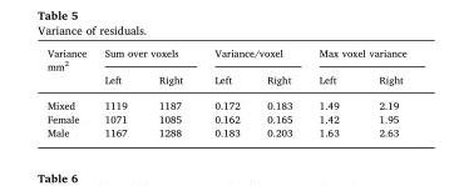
<table><thead><tr><td rowspan="2">Variance mm<sup>2</sup></td><td colspan="2">Sum over voxels</td><td colspan="2">Variance/voxel</td><td colspan="2">Max voxel variance</td></tr><tr><td>Left</td><td>Right</td><td>Left</td><td>Right</td><td>Left</td><td>Right</td></tr></thead><tbody><tr><td>Mixed</td><td>1119</td><td>1187</td><td>0.172</td><td>0.183</td><td>1.49</td><td>2.19</td></tr><tr><td>Female</td><td>1071</td><td>1085</td><td>0.162</td><td>0.165</td><td>1.42</td><td>1.95</td></tr><tr><td>Male</td><td>1167</td><td>1288</td><td>0.183</td><td>0.203</td><td>1.63</td><td>2.63</td></tr></tbody></table>